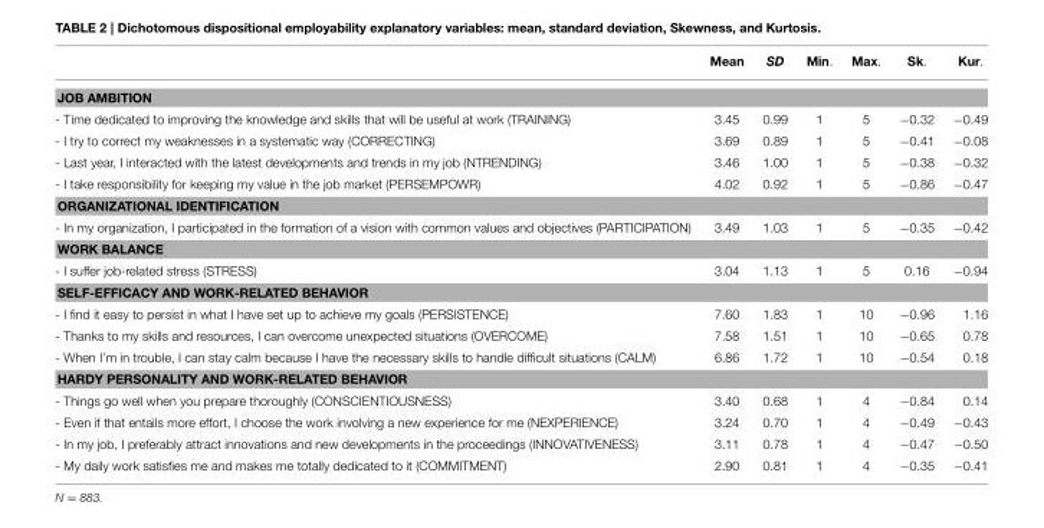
<table><thead><tr><td></td><td>Mean</td><td>SD</td><td>Min.</td><td>Max.</td><td>Sk.</td><td>Kur.</td></tr></thead><tbody><tr><td colspan="7">JOB AMBITION</td></tr><tr><td>- Time dedicated to improving the knowledge and skills that will be useful at work (TRAINING)</td><td>3.45</td><td>0.99</td><td>1</td><td>5</td><td>−0.32</td><td>−0.49</td></tr><tr><td>- I try to correct my weaknesses in a systematic way (CORRECTING)</td><td>3.69</td><td>0.89</td><td>1</td><td>5</td><td>−0.41</td><td>−0.08</td></tr><tr><td>- Last year, I interacted with the latest developments and trends in my job (NTRENDING)</td><td>3.46</td><td>1.00</td><td>1</td><td>5</td><td>−0.38</td><td>−0.32</td></tr><tr><td>- I take responsibility for keeping my value in the job market (PERSEMPOWR)</td><td>4.02</td><td>0.92</td><td>1</td><td>5</td><td>−0.86</td><td>−0.47</td></tr><tr><td colspan="7">ORGANIZATIONAL IDENTIFICATION</td></tr><tr><td>- In my organization, I participated in the formation of a vision with common values and objectives (PARTICIPATION)</td><td>3.49</td><td>1.03</td><td>1</td><td>5</td><td>−0.35</td><td>−0.42</td></tr><tr><td colspan="7">WORK BALANCE</td></tr><tr><td>- I suffer job-related stress (STRESS)</td><td>3.04</td><td>1.13</td><td>1</td><td>5</td><td>0.16</td><td>−0.94</td></tr><tr><td colspan="7">SELF-EFFICACY AND WORK-RELATED BEHAVIOR</td></tr><tr><td>- I find it easy to persist in what I have set up to achieve my goals (PERSISTENCE)</td><td>7.60</td><td>1.83</td><td>1</td><td>10</td><td>−0.96</td><td>1.16</td></tr><tr><td>- Thanks to my skills and resources, I can overcome unexpected situations (OVERCOME)</td><td>7.58</td><td>1.51</td><td>1</td><td>10</td><td>−0.65</td><td>0.78</td></tr><tr><td>- When I’m in trouble, I can stay calm because I have the necessary skills to handle difficult situations (CALM)</td><td>6.86</td><td>1.72</td><td>1</td><td>10</td><td>−0.54</td><td>0.18</td></tr><tr><td colspan="7">HARDY PERSONALITY AND WORK-RELATED BEHAVIOR</td></tr><tr><td>- Things go well when you prepare thoroughly (CONSCIENTIOUSNESS)</td><td>3.40</td><td>0.68</td><td>1</td><td>4</td><td>−0.84</td><td>0.14</td></tr><tr><td>- Even if that entails more effort, I choose the work involving a new experience for me (NEXPERIENCE)</td><td>3.24</td><td>0.70</td><td>1</td><td>4</td><td>−0.49</td><td>−0.43</td></tr><tr><td>- In my job, I preferably attract innovations and new developments in the proceedings (INNOVATIVENESS)</td><td>3.11</td><td>0.78</td><td>1</td><td>4</td><td>−0.47</td><td>−0.50</td></tr><tr><td>- My daily work satisfies me and makes me totally dedicated to it (COMMITMENT)</td><td>2.90</td><td>0.81</td><td>1</td><td>4</td><td>−0.35</td><td>−0.41</td></tr></tbody></table>